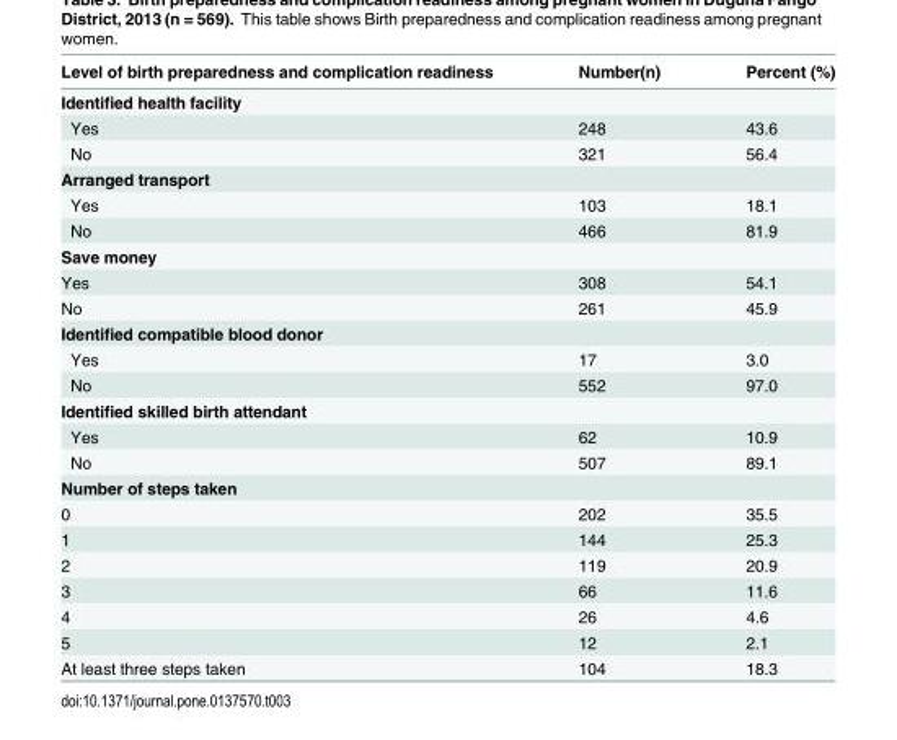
<table><thead><tr><td>Level of birth preparedness and complication readiness</td><td>Number(n)</td><td>Percent (%)</td></tr></thead><tbody><tr><td colspan="3">Identified health facility</td></tr><tr><td>Yes</td><td>248</td><td>43.6</td></tr><tr><td>No</td><td>321</td><td>56.4</td></tr><tr><td colspan="3">Arranged transport</td></tr><tr><td>Yes</td><td>103</td><td>18.1</td></tr><tr><td>No</td><td>466</td><td>81.9</td></tr><tr><td colspan="3">Save money</td></tr><tr><td>Yes</td><td>308</td><td>54.1</td></tr><tr><td>No</td><td>261</td><td>45.9</td></tr><tr><td colspan="3">Identified compatible blood donor</td></tr><tr><td>Yes</td><td>17</td><td>3.0</td></tr><tr><td>No</td><td>552</td><td>97.0</td></tr><tr><td colspan="3">Identified skilled birth attendant</td></tr><tr><td>Yes</td><td>62</td><td>10.9</td></tr><tr><td>No</td><td>507</td><td>89.1</td></tr><tr><td colspan="3">Number of steps taken</td></tr><tr><td>0</td><td>202</td><td>35.5</td></tr><tr><td>1</td><td>144</td><td>25.3</td></tr><tr><td>2</td><td>119</td><td>20.9</td></tr><tr><td>3</td><td>66</td><td>11.6</td></tr><tr><td>4</td><td>26</td><td>4.6</td></tr><tr><td>5</td><td>12</td><td>2.1</td></tr><tr><td>At least three steps taken</td><td>104</td><td>18.3</td></tr></tbody></table>